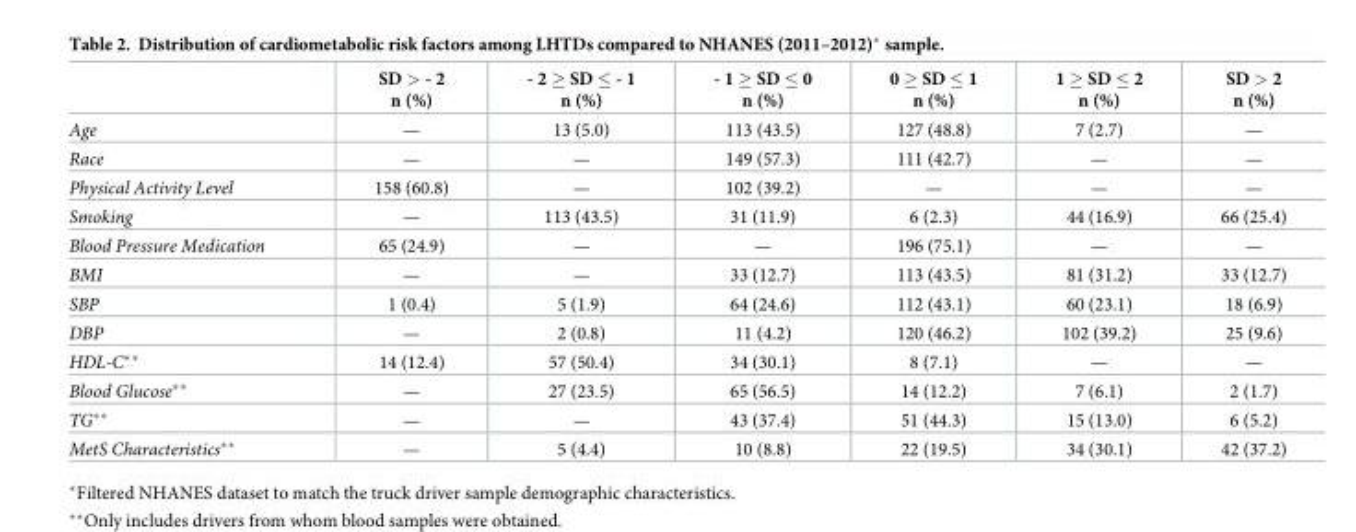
<table><thead><tr><td></td><td>SD &gt; - 2 n (%)</td><td>- 2 ≥ SD ≤ - 1 n (%)</td><td>- 1 ≥ SD ≤ 0 n (%)</td><td>0 ≥ SD ≤ 1 n (%)</td><td>1 ≥ SD ≤ 2 n (%)</td><td>SD &gt; 2 n (%)</td></tr></thead><tbody><tr><td>Age</td><td>—</td><td>13 (5.0)</td><td>113 (43.5)</td><td>127 (48.8)</td><td>7 (2.7)</td><td>—</td></tr><tr><td>Race</td><td>—</td><td>—</td><td>149 (57.3)</td><td>111 (42.7)</td><td>—</td><td>—</td></tr><tr><td>Physical Activity Level</td><td>158 (60.8)</td><td>—</td><td>102 (39.2)</td><td>—</td><td>—</td><td>—</td></tr><tr><td>Smoking</td><td>—</td><td>113 (43.5)</td><td>31 (11.9)</td><td>6 (2.3)</td><td>44 (16.9)</td><td>66 (25.4)</td></tr><tr><td>Blood Pressure Medication</td><td>65 (24.9)</td><td>—</td><td>—</td><td>196 (75.1)</td><td>—</td><td>—</td></tr><tr><td>BMI</td><td>—</td><td>—</td><td>33 (12.7)</td><td>113 (43.5)</td><td>81 (31.2)</td><td>33 (12.7)</td></tr><tr><td>SBP</td><td>1 (0.4)</td><td>5 (1.9)</td><td>64 (24.6)</td><td>112 (43.1)</td><td>60 (23.1)</td><td>18 (6.9)</td></tr><tr><td>DBP</td><td>—</td><td>2 (0.8)</td><td>11 (4.2)</td><td>120 (46.2)</td><td>102 (39.2)</td><td>25 (9.6)</td></tr><tr><td>HDL-C**</td><td>14 (12.4)</td><td>57 (50.4)</td><td>34 (30.1)</td><td>8 (7.1)</td><td>—</td><td>—</td></tr><tr><td>Blood Glucose**</td><td>—</td><td>27 (23.5)</td><td>65 (56.5)</td><td>14 (12.2)</td><td>7 (6.1)</td><td>2 (1.7)</td></tr><tr><td>TG**</td><td>—</td><td>—</td><td>43 (37.4)</td><td>51 (44.3)</td><td>15 (13.0)</td><td>6 (5.2)</td></tr><tr><td>MetS Characteristics**</td><td>—</td><td>5 (4.4)</td><td>10 (8.8)</td><td>22 (19.5)</td><td>34 (30.1)</td><td>42 (37.2)</td></tr></tbody></table>